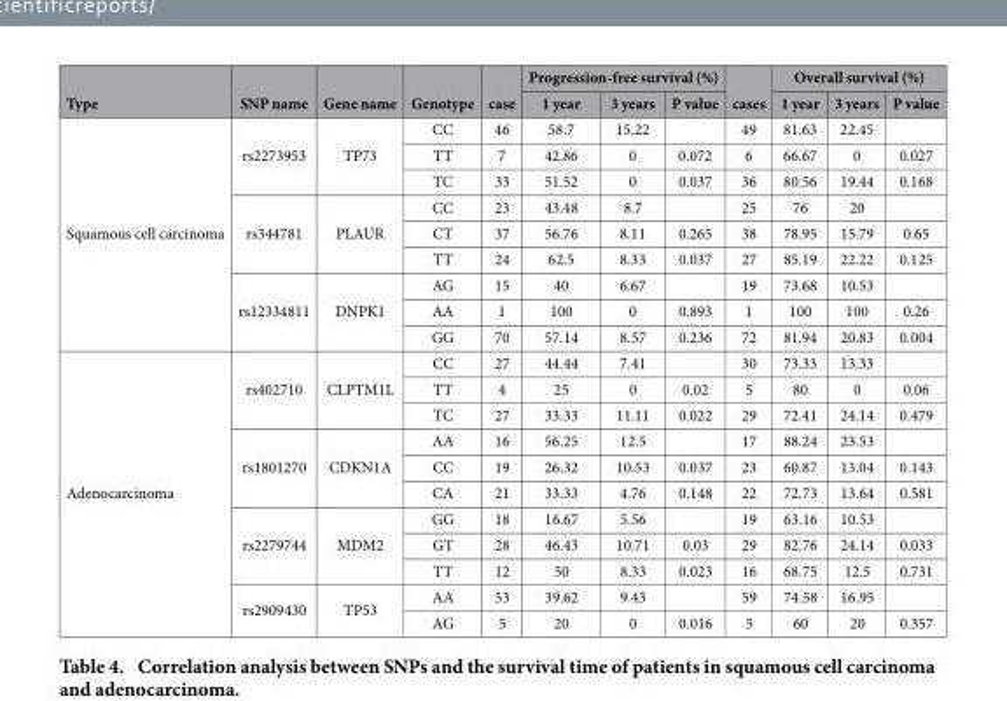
<table><thead><tr><td rowspan="2">Type</td><td rowspan="2">SNP name</td><td rowspan="2">Gene name</td><td rowspan="2">Genotype</td><td rowspan="2">case</td><td colspan="3">Progression-free survival (%)</td><td rowspan="2">cases</td><td colspan="3">Overall survival (%)</td></tr><tr><td>1 year</td><td>3 years</td><td>P value</td><td>1 year</td><td>3 years</td><td>P value</td></tr></thead><tbody><tr><td rowspan="9">Squamous cell carcinoma</td><td rowspan="3">rs2273953</td><td rowspan="3">TP73</td><td>CC</td><td>46</td><td>58.7</td><td>15.22</td><td></td><td>49</td><td>81.63</td><td>22.45</td><td></td></tr><tr><td>TT</td><td>7</td><td>42.86</td><td>0</td><td>0.072</td><td>6</td><td>66.67</td><td>0</td><td>0.027</td></tr><tr><td>TC</td><td>33</td><td>51.52</td><td>0</td><td>0.037</td><td>36</td><td>80.56</td><td>19.44</td><td>0.168</td></tr><tr><td rowspan="3">rs344781</td><td rowspan="3">PLAUR</td><td>CC</td><td>23</td><td>43.48</td><td>8.7</td><td></td><td>25</td><td>76</td><td>20</td><td></td></tr><tr><td>CT</td><td>37</td><td>56.76</td><td>8.11</td><td>0.265</td><td>38</td><td>78.95</td><td>15.79</td><td>0.65</td></tr><tr><td>TT</td><td>24</td><td>62.5</td><td>8.33</td><td>0.037</td><td>27</td><td>85.19</td><td>22.22</td><td>0.125</td></tr><tr><td rowspan="3">rs12334811</td><td rowspan="3">DNPK1</td><td>AG</td><td>15</td><td>40</td><td>6.67</td><td></td><td>19</td><td>73.68</td><td>10.53</td><td></td></tr><tr><td>AA</td><td>1</td><td>100</td><td>0</td><td>0.893</td><td>1</td><td>100</td><td>100</td><td>0.26</td></tr><tr><td>GG</td><td>70</td><td>57.14</td><td>8.57</td><td>0.236</td><td>72</td><td>81.94</td><td>20.83</td><td>0.004</td></tr><tr><td rowspan="11">Adenocarcinoma</td><td rowspan="3">rs402710</td><td rowspan="3">CLPTM1L</td><td>CC</td><td>27</td><td>44.44</td><td>7.41</td><td></td><td>30</td><td>73.33</td><td>13.33</td><td></td></tr><tr><td>TT</td><td>4</td><td>25</td><td>0</td><td>0.02</td><td>5</td><td>80</td><td>0</td><td>0.06</td></tr><tr><td>TC</td><td>27</td><td>33.33</td><td>11.11</td><td>0.022</td><td>29</td><td>72.41</td><td>24.14</td><td>0.479</td></tr><tr><td rowspan="3">rs1801270</td><td rowspan="3">CDKN1A</td><td>AA</td><td>16</td><td>56.25</td><td>12.5</td><td></td><td>17</td><td>88.24</td><td>23.53</td><td></td></tr><tr><td>CC</td><td>19</td><td>26.32</td><td>10.53</td><td>0.037</td><td>23</td><td>60.87</td><td>13.04</td><td>0.143</td></tr><tr><td>CA</td><td>21</td><td>33.33</td><td>4.76</td><td>0.148</td><td>22</td><td>72.73</td><td>13.64</td><td>0.581</td></tr><tr><td rowspan="3">rs2279744</td><td rowspan="3">MDM2</td><td>GG</td><td>18</td><td>16.67</td><td>5.56</td><td></td><td>19</td><td>63.16</td><td>10.53</td><td></td></tr><tr><td>GT</td><td>28</td><td>46.43</td><td>10.71</td><td>0.03</td><td>29</td><td>82.76</td><td>24.14</td><td>0.033</td></tr><tr><td>TT</td><td>12</td><td>50</td><td>8.33</td><td>0.023</td><td>16</td><td>68.75</td><td>12.5</td><td>0.731</td></tr><tr><td rowspan="2">rs2909430</td><td rowspan="2">TP53</td><td>AA</td><td>53</td><td>39.62</td><td>9.43</td><td></td><td>59</td><td>74.58</td><td>16.95</td><td></td></tr><tr><td>AG</td><td>5</td><td>20</td><td>0</td><td>0.016</td><td>5</td><td>60</td><td>20</td><td>0.357</td></tr></tbody></table>